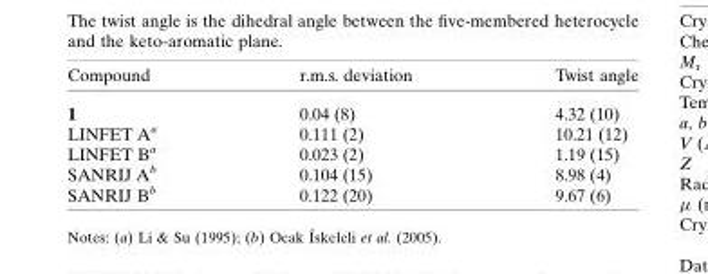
<table><thead><tr><td>Compound</td><td>r.m.s. deviation</td><td>Twist angle</td></tr></thead><tbody><tr><td>1</td><td>0.04 (8)</td><td>4.32 (10)</td></tr><tr><td>LINFET A<sup>a</sup></td><td>0.111 (2)</td><td>10.21 (12)</td></tr><tr><td>LINFET B<sup>a</sup></td><td>0.023 (2)</td><td>1.19 (15)</td></tr><tr><td>SANRIJ A<sup>b</sup></td><td>0.104 (15)</td><td>8.98 (4)</td></tr><tr><td>SANRIJ B<sup>b</sup></td><td>0.122 (20)</td><td>9.67 (6)</td></tr></tbody></table>